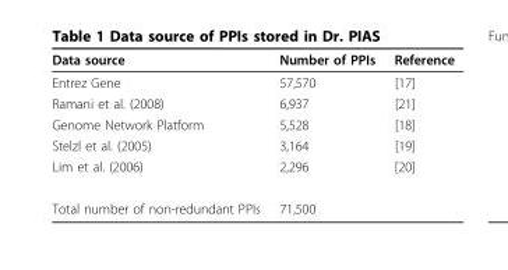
<table><thead><tr><td>Data source</td><td>Number of PPIs</td><td>Reference</td></tr></thead><tbody><tr><td>Entrez Gene</td><td>57,570</td><td>[17]</td></tr><tr><td>Ramani et al. (2008)</td><td>6,937</td><td>[21]</td></tr><tr><td>Genome Network Platform</td><td>5,528</td><td>[18]</td></tr><tr><td>Stelzl et al. (2005)</td><td>3,164</td><td>[19]</td></tr><tr><td>Lim et al. (2006)</td><td>2,296</td><td>[20]</td></tr><tr><td>Total number of non-redundant PPIs</td><td>71,500</td><td></td></tr></tbody></table>